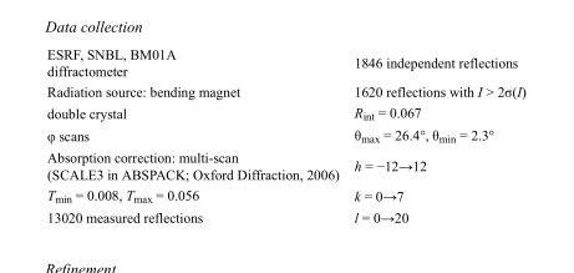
<table><tbody><tr><td>ESRF, SNBL, BM01A diffractometer</td><td>1846 independent reflections</td></tr><tr><td>Radiation source: bending magnet</td><td>1620 reflections with I &gt; 2σ(I)</td></tr><tr><td>double crystal</td><td>R<sub>int</sub> = 0.067</td></tr><tr><td>φ scans</td><td>θ<sub>max</sub> = 26.4°, θ<sub>min</sub> = 2.3°</td></tr><tr><td>Absorption correction: multi-scan (SCALE3 in ABSPACK; Oxford Diffraction, 2006)</td><td>h = −12→12</td></tr><tr><td>T<sub>min</sub> = 0.008, T<sub>max</sub> = 0.056</td><td>k = 0→7</td></tr><tr><td>13020 measured reflections</td><td>l = 0→20</td></tr></tbody></table>